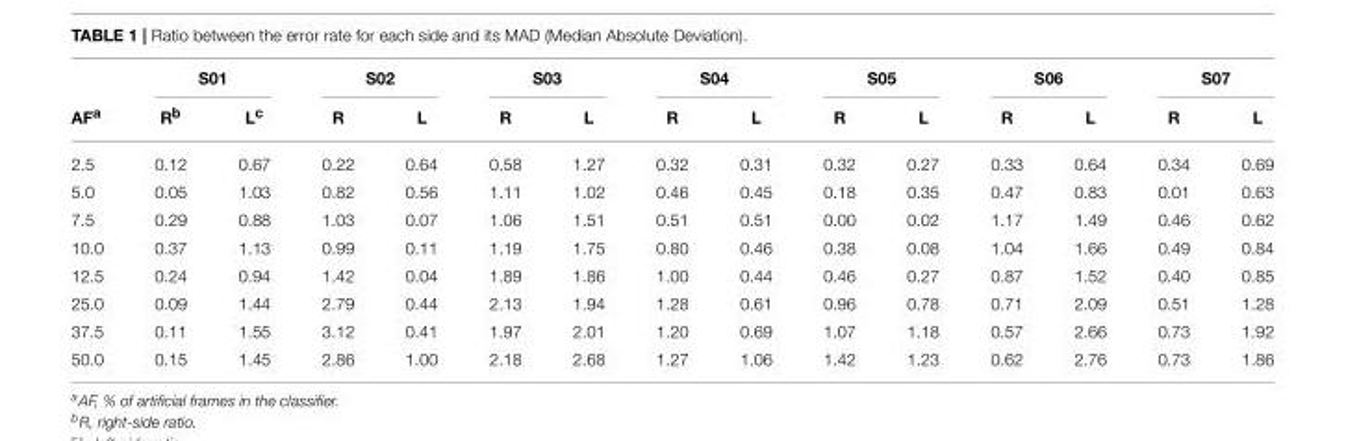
<table><thead><tr><td rowspan="2">AF<sup>a</sup></td><td colspan="2">S01</td><td colspan="2">S02</td><td colspan="2">S03</td><td colspan="2">S04</td><td colspan="2">S05</td><td colspan="2">S06</td><td colspan="2">S07</td></tr><tr><td>R<sup>b</sup></td><td>L<sup>c</sup></td><td>R</td><td>L</td><td>R</td><td>L</td><td>R</td><td>L</td><td>R</td><td>L</td><td>R</td><td>L</td><td>R</td><td>L</td></tr></thead><tbody><tr><td>2.5</td><td>0.12</td><td>0.67</td><td>0.22</td><td>0.64</td><td>0.58</td><td>1.27</td><td>0.32</td><td>0.31</td><td>0.32</td><td>0.27</td><td>0.33</td><td>0.64</td><td>0.34</td><td>0.69</td></tr><tr><td>5.0</td><td>0.05</td><td>1.03</td><td>0.82</td><td>0.56</td><td>1.11</td><td>1.02</td><td>0.46</td><td>0.45</td><td>0.18</td><td>0.35</td><td>0.47</td><td>0.83</td><td>0.01</td><td>0.63</td></tr><tr><td>7.5</td><td>0.29</td><td>0.88</td><td>1.03</td><td>0.07</td><td>1.06</td><td>1.51</td><td>0.51</td><td>0.51</td><td>0.00</td><td>0.02</td><td>1.17</td><td>1.49</td><td>0.46</td><td>0.62</td></tr><tr><td>10.0</td><td>0.37</td><td>1.13</td><td>0.99</td><td>0.11</td><td>1.19</td><td>1.75</td><td>0.80</td><td>0.46</td><td>0.38</td><td>0.08</td><td>1.04</td><td>1.66</td><td>0.49</td><td>0.84</td></tr><tr><td>12.5</td><td>0.24</td><td>0.94</td><td>1.42</td><td>0.04</td><td>1.89</td><td>1.86</td><td>1.00</td><td>0.44</td><td>0.46</td><td>0.27</td><td>0.87</td><td>1.52</td><td>0.40</td><td>0.85</td></tr><tr><td>25.0</td><td>0.09</td><td>1.44</td><td>2.79</td><td>0.44</td><td>2.13</td><td>1.94</td><td>1.28</td><td>0.61</td><td>0.96</td><td>0.78</td><td>0.71</td><td>2.09</td><td>0.51</td><td>1.28</td></tr><tr><td>37.5</td><td>0.11</td><td>1.55</td><td>3.12</td><td>0.41</td><td>1.97</td><td>2.01</td><td>1.20</td><td>0.69</td><td>1.07</td><td>1.18</td><td>0.57</td><td>2.66</td><td>0.73</td><td>1.92</td></tr><tr><td>50.0</td><td>0.15</td><td>1.45</td><td>2.86</td><td>1.00</td><td>2.18</td><td>2.68</td><td>1.27</td><td>1.06</td><td>1.42</td><td>1.23</td><td>0.62</td><td>2.76</td><td>0.73</td><td>1.86</td></tr></tbody></table>